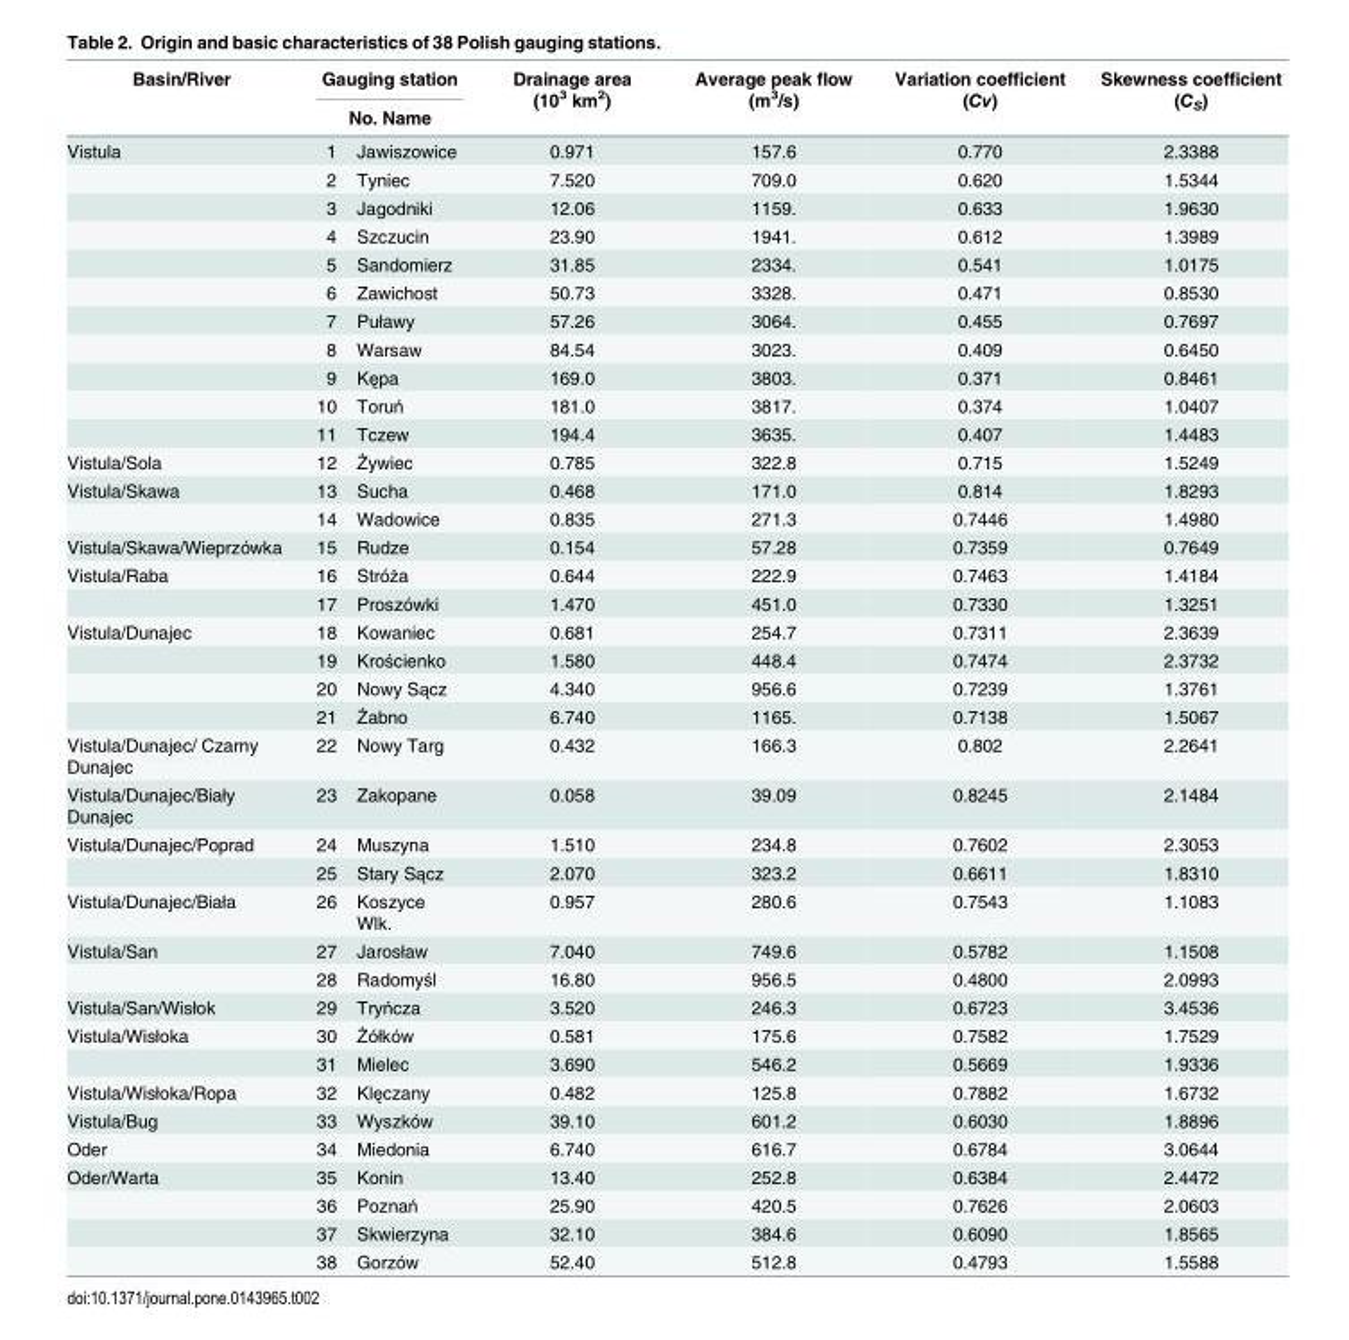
<table><thead><tr><td rowspan="3">Basin/River Vistula</td><td rowspan="2" colspan="2">Gauging station No. Name</td><td rowspan="3">Drainage area (10<sup>3</sup> km<sup>2</sup>) 0.971</td><td rowspan="3">Average peak flow (m<sup>3</sup>/s) 157.6</td><td rowspan="3">Variation coefficient (Cv) 0.770</td><td rowspan="3">Skewness coefficient (C<sub>S</sub>) 2.3388</td></tr><tr></tr><tr><td>1</td><td>Jawiszowice</td></tr></thead><tbody><tr><td></td><td>2</td><td>Tyniec</td><td>7.520</td><td>709.0</td><td>0.620</td><td>1.5344</td></tr><tr><td></td><td>3</td><td>Jagodniki</td><td>12.06</td><td>1159.</td><td>0.633</td><td>1.9630</td></tr><tr><td></td><td>4</td><td>Szczucin</td><td>23.90</td><td>1941.</td><td>0.612</td><td>1.3989</td></tr><tr><td></td><td>5</td><td>Sandomierz</td><td>31.85</td><td>2334.</td><td>0.541</td><td>1.0175</td></tr><tr><td></td><td>6</td><td>Zawichost</td><td>50.73</td><td>3328.</td><td>0.471</td><td>0.8530</td></tr><tr><td></td><td>7</td><td>Puławy</td><td>57.26</td><td>3064.</td><td>0.455</td><td>0.7697</td></tr><tr><td></td><td>8</td><td>Warsaw</td><td>84.54</td><td>3023.</td><td>0.409</td><td>0.6450</td></tr><tr><td></td><td>9</td><td>Kępa</td><td>169.0</td><td>3803.</td><td>0.371</td><td>0.8461</td></tr><tr><td></td><td>10</td><td>Toruń</td><td>181.0</td><td>3817.</td><td>0.374</td><td>1.0407</td></tr><tr><td></td><td>11</td><td>Tczew</td><td>194.4</td><td>3635.</td><td>0.407</td><td>1.4483</td></tr><tr><td>Vistula/Sola</td><td>12</td><td>Żywiec</td><td>0.785</td><td>322.8</td><td>0.715</td><td>1.5249</td></tr><tr><td rowspan="2">Vistula/Skawa</td><td>13</td><td>Sucha</td><td>0.468</td><td>171.0</td><td>0.814</td><td>1.8293</td></tr><tr><td>14</td><td>Wadowice</td><td>0.835</td><td>271.3</td><td>0.7446</td><td>1.4980</td></tr><tr><td>Vistula/Skawa/Wieprzówka</td><td>15</td><td>Rudze</td><td>0.154</td><td>57.28</td><td>0.7359</td><td>0.7649</td></tr><tr><td rowspan="2">Vistula/Raba</td><td>16</td><td>Stróża</td><td>0.644</td><td>222.9</td><td>0.7463</td><td>1.4184</td></tr><tr><td>17</td><td>Proszówki</td><td>1.470</td><td>451.0</td><td>0.7330</td><td>1.3251</td></tr><tr><td rowspan="4">Vistula/Dunajec</td><td>18</td><td>Kowaniec</td><td>0.681</td><td>254.7</td><td>0.7311</td><td>2.3639</td></tr><tr><td>19</td><td>Krościenko</td><td>1.580</td><td>448.4</td><td>0.7474</td><td>2.3732</td></tr><tr><td>20</td><td>Nowy Sącz</td><td>4.340</td><td>956.6</td><td>0.7239</td><td>1.3761</td></tr><tr><td>21</td><td>Żabno</td><td>6.740</td><td>1165.</td><td>0.7138</td><td>1.5067</td></tr><tr><td>Vistula/Dunajec/ Czarny Dunajec</td><td>22</td><td>Nowy Targ</td><td>0.432</td><td>166.3</td><td>0.802</td><td>2.2641</td></tr><tr><td>Vistula/Dunajec/Biały Dunajec</td><td>23</td><td>Zakopane</td><td>0.058</td><td>39.09</td><td>0.8245</td><td>2.1484</td></tr><tr><td rowspan="2">Vistula/Dunajec/Poprad</td><td>24</td><td>Muszyna</td><td>1.510</td><td>234.8</td><td>0.7602</td><td>2.3053</td></tr><tr><td>25</td><td>Stary Sącz</td><td>2.070</td><td>323.2</td><td>0.6611</td><td>1.8310</td></tr><tr><td>Vistula/Dunajec/Biała</td><td>26</td><td>Koszyce Wlk.</td><td>0.957</td><td>280.6</td><td>0.7543</td><td>1.1083</td></tr><tr><td rowspan="2">Vistula/San</td><td>27</td><td>Jarosław</td><td>7.040</td><td>749.6</td><td>0.5782</td><td>1.1508</td></tr><tr><td>28</td><td>Radomyśl</td><td>16.80</td><td>956.5</td><td>0.4800</td><td>2.0993</td></tr><tr><td>Vistula/San/Wisłok</td><td>29</td><td>Tryńcza</td><td>3.520</td><td>246.3</td><td>0.6723</td><td>3.4536</td></tr><tr><td rowspan="2">Vistula/Wisłoka</td><td>30</td><td>Żółków</td><td>0.581</td><td>175.6</td><td>0.7582</td><td>1.7529</td></tr><tr><td>31</td><td>Mielec</td><td>3.690</td><td>546.2</td><td>0.5669</td><td>1.9336</td></tr><tr><td>Vistula/Wisłoka/Ropa</td><td>32</td><td>Klęczany</td><td>0.482</td><td>125.8</td><td>0.7882</td><td>1.6732</td></tr><tr><td>Vistula/Bug</td><td>33</td><td>Wyszków</td><td>39.10</td><td>601.2</td><td>0.6030</td><td>1.8896</td></tr><tr><td>Oder</td><td>34</td><td>Miedonia</td><td>6.740</td><td>616.7</td><td>0.6784</td><td>3.0644</td></tr><tr><td rowspan="4">Oder/Warta</td><td>35</td><td>Konin</td><td>13.40</td><td>252.8</td><td>0.6384</td><td>2.4472</td></tr><tr><td>36</td><td>Poznań</td><td>25.90</td><td>420.5</td><td>0.7626</td><td>2.0603</td></tr><tr><td>37</td><td>Skwierzyna</td><td>32.10</td><td>384.6</td><td>0.6090</td><td>1.8565</td></tr><tr><td>38</td><td>Gorzów</td><td>52.40</td><td>512.8</td><td>0.4793</td><td>1.5588</td></tr></tbody></table>